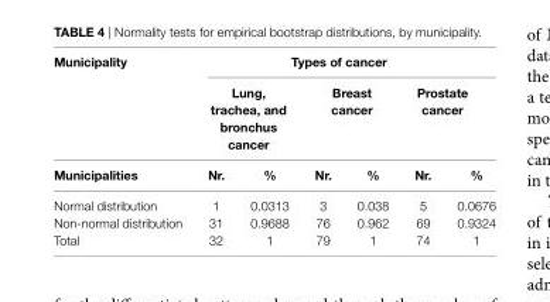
<table><thead><tr><td rowspan="3">Municipality Municipalities</td><td colspan="6">Types of cancer</td></tr><tr><td colspan="2">lung, trachea, and bronchus cancer</td><td colspan="2">Breast cancer</td><td colspan="2">Prostate cancer</td></tr><tr><td>nr.</td><td>%</td><td>nr.</td><td>%</td><td>nr.</td><td>%</td></tr></thead><tbody><tr><td>Normal distribution</td><td>1</td><td>0.0313</td><td>3</td><td>0.038</td><td>5</td><td>0.0676</td></tr><tr><td>Non-normal distribution</td><td>31</td><td>0.9688</td><td>76</td><td>0.962</td><td>69</td><td>0.9324</td></tr><tr><td>Total</td><td>32</td><td>1</td><td>79</td><td>1</td><td>74</td><td>1</td></tr></tbody></table>